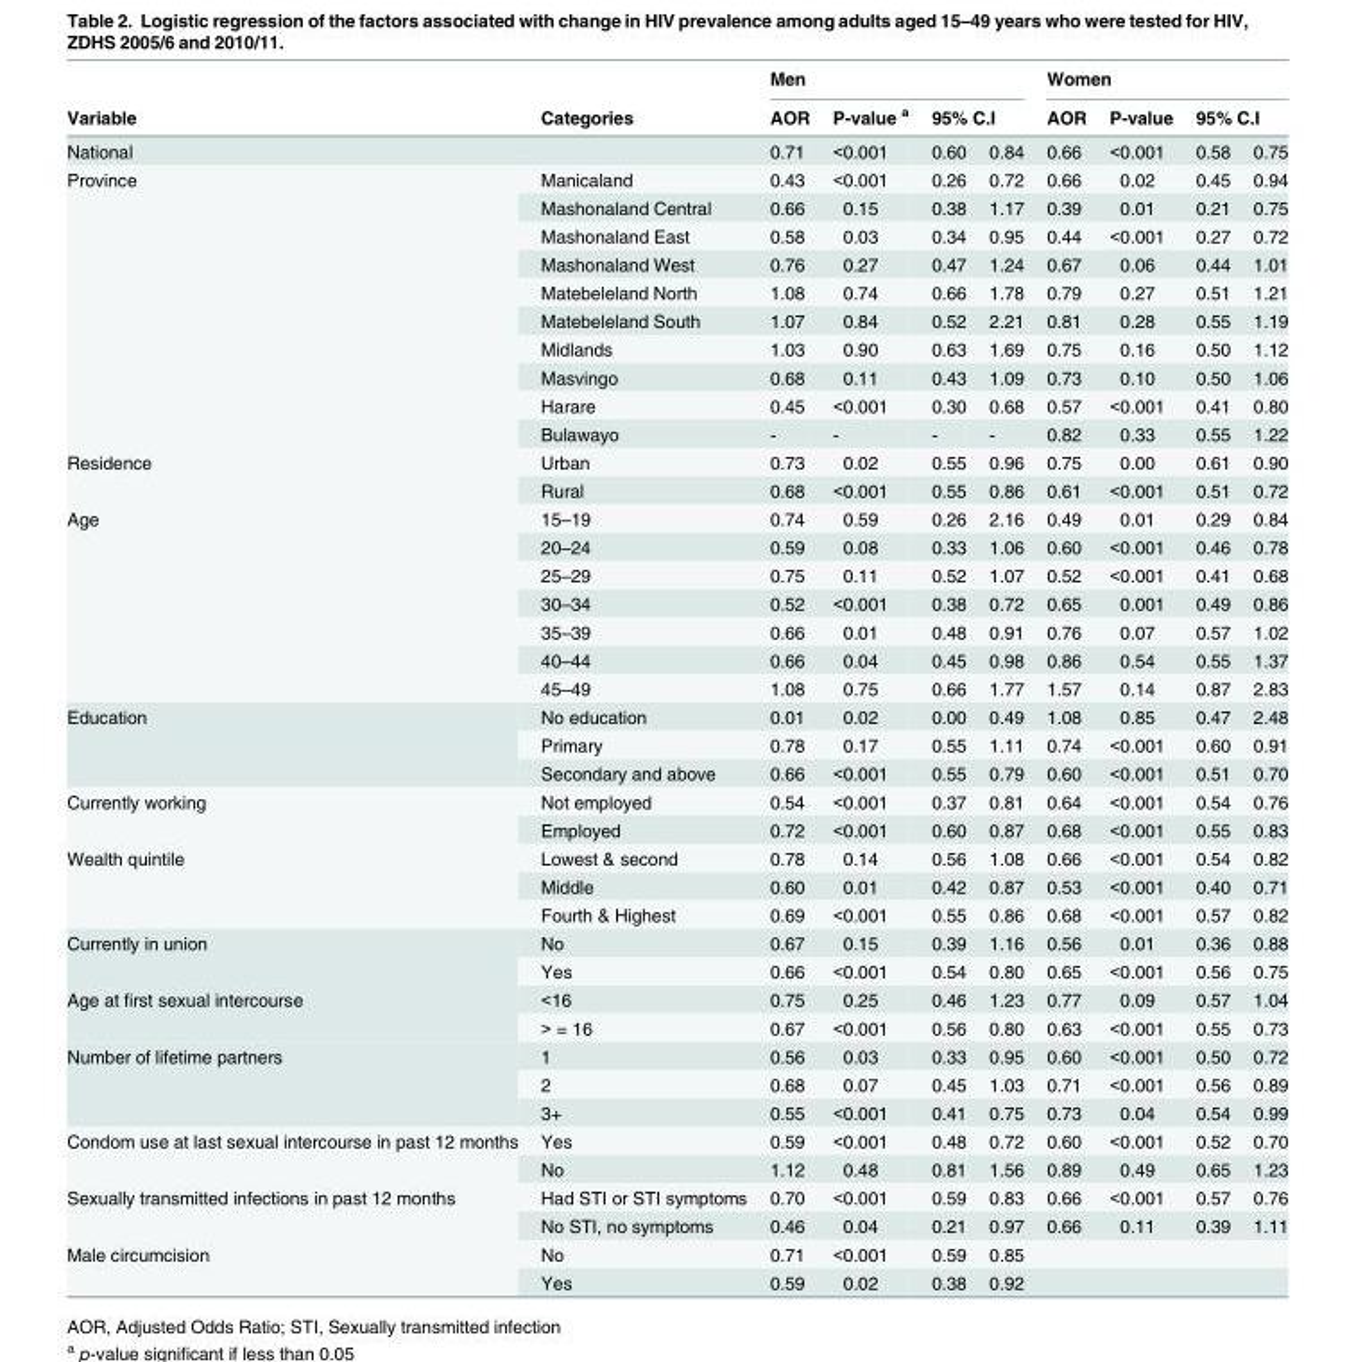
<table><thead><tr><td rowspan="3">Variable National</td><td rowspan="3">Categories</td><td colspan="4">Men</td><td colspan="4">Women</td></tr><tr><td rowspan="2">AOR 0.71</td><td rowspan="2">P-value <sup>a</sup> &lt;0.001</td><td colspan="2">95% C.I</td><td rowspan="2">AOR 0.66</td><td rowspan="2">P-value &lt;0.001</td><td colspan="2">95% C.I</td></tr><tr><td>0.60</td><td>0.84</td><td>0.58</td><td>0.75</td></tr></thead><tbody><tr><td rowspan="10">Province</td><td>Manicaland</td><td>0.43</td><td>&lt;0.001</td><td>0.26</td><td>0.72</td><td>0.66</td><td>0.02</td><td>0.45</td><td>0.94</td></tr><tr><td>Mashonaland Central</td><td>0.66</td><td>0.15</td><td>0.38</td><td>1.17</td><td>0.39</td><td>0.01</td><td>0.21</td><td>0.75</td></tr><tr><td>Mashonaland East</td><td>0.58</td><td>0.03</td><td>0.34</td><td>0.95</td><td>0.44</td><td>&lt;0.001</td><td>0.27</td><td>0.72</td></tr><tr><td>Mashonaland West</td><td>0.76</td><td>0.27</td><td>0.47</td><td>1.24</td><td>0.67</td><td>0.06</td><td>0.44</td><td>1.01</td></tr><tr><td>Matebeleland North</td><td>1.08</td><td>0.74</td><td>0.66</td><td>1.78</td><td>0.79</td><td>0.27</td><td>0.51</td><td>1.21</td></tr><tr><td>Matebeleland South</td><td>1.07</td><td>0.84</td><td>0.52</td><td>2.21</td><td>0.81</td><td>0.28</td><td>0.55</td><td>1.19</td></tr><tr><td>Midlands</td><td>1.03</td><td>0.90</td><td>0.63</td><td>1.69</td><td>0.75</td><td>0.16</td><td>0.50</td><td>1.12</td></tr><tr><td>Masvingo</td><td>0.68</td><td>0.11</td><td>0.43</td><td>1.09</td><td>0.73</td><td>0.10</td><td>0.50</td><td>1.06</td></tr><tr><td>Harare</td><td>0.45</td><td>&lt;0.001</td><td>0.30</td><td>0.68</td><td>0.57</td><td>&lt;0.001</td><td>0.41</td><td>0.80</td></tr><tr><td>Bulawayo</td><td>-</td><td>-</td><td>-</td><td>-</td><td>0.82</td><td>0.33</td><td>0.55</td><td>1.22</td></tr><tr><td rowspan="2">Residence</td><td>Urban</td><td>0.73</td><td>0.02</td><td>0.55</td><td>0.96</td><td>0.75</td><td>0.00</td><td>0.61</td><td>0.90</td></tr><tr><td>Rural</td><td>0.68</td><td>&lt;0.001</td><td>0.55</td><td>0.86</td><td>0.61</td><td>&lt;0.001</td><td>0.51</td><td>0.72</td></tr><tr><td rowspan="7">Age</td><td>15–19</td><td>0.74</td><td>0.59</td><td>0.26</td><td>2.16</td><td>0.49</td><td>0.01</td><td>0.29</td><td>0.84</td></tr><tr><td>20–24</td><td>0.59</td><td>0.08</td><td>0.33</td><td>1.06</td><td>0.60</td><td>&lt;0.001</td><td>0.46</td><td>0.78</td></tr><tr><td>25–29</td><td>0.75</td><td>0.11</td><td>0.52</td><td>1.07</td><td>0.52</td><td>&lt;0.001</td><td>0.41</td><td>0.68</td></tr><tr><td>30–34</td><td>0.52</td><td>&lt;0.001</td><td>0.38</td><td>0.72</td><td>0.65</td><td>0.001</td><td>0.49</td><td>0.86</td></tr><tr><td>35–39</td><td>0.66</td><td>0.01</td><td>0.48</td><td>0.91</td><td>0.76</td><td>0.07</td><td>0.57</td><td>1.02</td></tr><tr><td>40–44</td><td>0.66</td><td>0.04</td><td>0.45</td><td>0.98</td><td>0.86</td><td>0.54</td><td>0.55</td><td>1.37</td></tr><tr><td>45–49</td><td>1.08</td><td>0.75</td><td>0.66</td><td>1.77</td><td>1.57</td><td>0.14</td><td>0.87</td><td>2.83</td></tr><tr><td rowspan="3">Education</td><td>No education</td><td>0.01</td><td>0.02</td><td>0.00</td><td>0.49</td><td>1.08</td><td>0.85</td><td>0.47</td><td>2.48</td></tr><tr><td>Primary</td><td>0.78</td><td>0.17</td><td>0.55</td><td>1.11</td><td>0.74</td><td>&lt;0.001</td><td>0.60</td><td>0.91</td></tr><tr><td>Secondary and above</td><td>0.66</td><td>&lt;0.001</td><td>0.55</td><td>0.79</td><td>0.60</td><td>&lt;0.001</td><td>0.51</td><td>0.70</td></tr><tr><td rowspan="2">Currently working</td><td>Not employed</td><td>0.54</td><td>&lt;0.001</td><td>0.37</td><td>0.81</td><td>0.64</td><td>&lt;0.001</td><td>0.54</td><td>0.76</td></tr><tr><td>Employed</td><td>0.72</td><td>&lt;0.001</td><td>0.60</td><td>0.87</td><td>0.68</td><td>&lt;0.001</td><td>0.55</td><td>0.83</td></tr><tr><td rowspan="3">Wealth quintile</td><td>Lowest &amp; second</td><td>0.78</td><td>0.14</td><td>0.56</td><td>1.08</td><td>0.66</td><td>&lt;0.001</td><td>0.54</td><td>0.82</td></tr><tr><td>Middle</td><td>0.60</td><td>0.01</td><td>0.42</td><td>0.87</td><td>0.53</td><td>&lt;0.001</td><td>0.40</td><td>0.71</td></tr><tr><td>Fourth &amp; Highest</td><td>0.69</td><td>&lt;0.001</td><td>0.55</td><td>0.86</td><td>0.68</td><td>&lt;0.001</td><td>0.57</td><td>0.82</td></tr><tr><td rowspan="2">Currently in union</td><td>No</td><td>0.67</td><td>0.15</td><td>0.39</td><td>1.16</td><td>0.56</td><td>0.01</td><td>0.36</td><td>0.88</td></tr><tr><td>Yes</td><td>0.66</td><td>&lt;0.001</td><td>0.54</td><td>0.80</td><td>0.65</td><td>&lt;0.001</td><td>0.56</td><td>0.75</td></tr><tr><td rowspan="2">Age at first sexual intercourse</td><td>&lt;16</td><td>0.75</td><td>0.25</td><td>0.46</td><td>1.23</td><td>0.77</td><td>0.09</td><td>0.57</td><td>1.04</td></tr><tr><td>&gt; = 16</td><td>0.67</td><td>&lt;0.001</td><td>0.56</td><td>0.80</td><td>0.63</td><td>&lt;0.001</td><td>0.55</td><td>0.73</td></tr><tr><td rowspan="3">Number of lifetime partners</td><td>1</td><td>0.56</td><td>0.03</td><td>0.33</td><td>0.95</td><td>0.60</td><td>&lt;0.001</td><td>0.50</td><td>0.72</td></tr><tr><td>2</td><td>0.68</td><td>0.07</td><td>0.45</td><td>1.03</td><td>0.71</td><td>&lt;0.001</td><td>0.56</td><td>0.89</td></tr><tr><td>3+</td><td>0.55</td><td>&lt;0.001</td><td>0.41</td><td>0.75</td><td>0.73</td><td>0.04</td><td>0.54</td><td>0.99</td></tr><tr><td rowspan="2">Condom use at last sexual intercourse in past 12 months</td><td>Yes</td><td>0.59</td><td>&lt;0.001</td><td>0.48</td><td>0.72</td><td>0.60</td><td>&lt;0.001</td><td>0.52</td><td>0.70</td></tr><tr><td>No</td><td>1.12</td><td>0.48</td><td>0.81</td><td>1.56</td><td>0.89</td><td>0.49</td><td>0.65</td><td>1.23</td></tr><tr><td rowspan="2">Sexually transmitted infections in past 12 months</td><td>Had STI or STI symptoms</td><td>0.70</td><td>&lt;0.001</td><td>0.59</td><td>0.83</td><td>0.66</td><td>&lt;0.001</td><td>0.57</td><td>0.76</td></tr><tr><td>No STI, no symptoms</td><td>0.46</td><td>0.04</td><td>0.21</td><td>0.97</td><td>0.66</td><td>0.11</td><td>0.39</td><td>1.11</td></tr><tr><td rowspan="2">Male circumcision</td><td>No</td><td>0.71</td><td>&lt;0.001</td><td>0.59</td><td>0.85</td><td></td><td></td><td></td><td></td></tr><tr><td>Yes</td><td>0.59</td><td>0.02</td><td>0.38</td><td>0.92</td><td></td><td></td><td></td><td></td></tr></tbody></table>